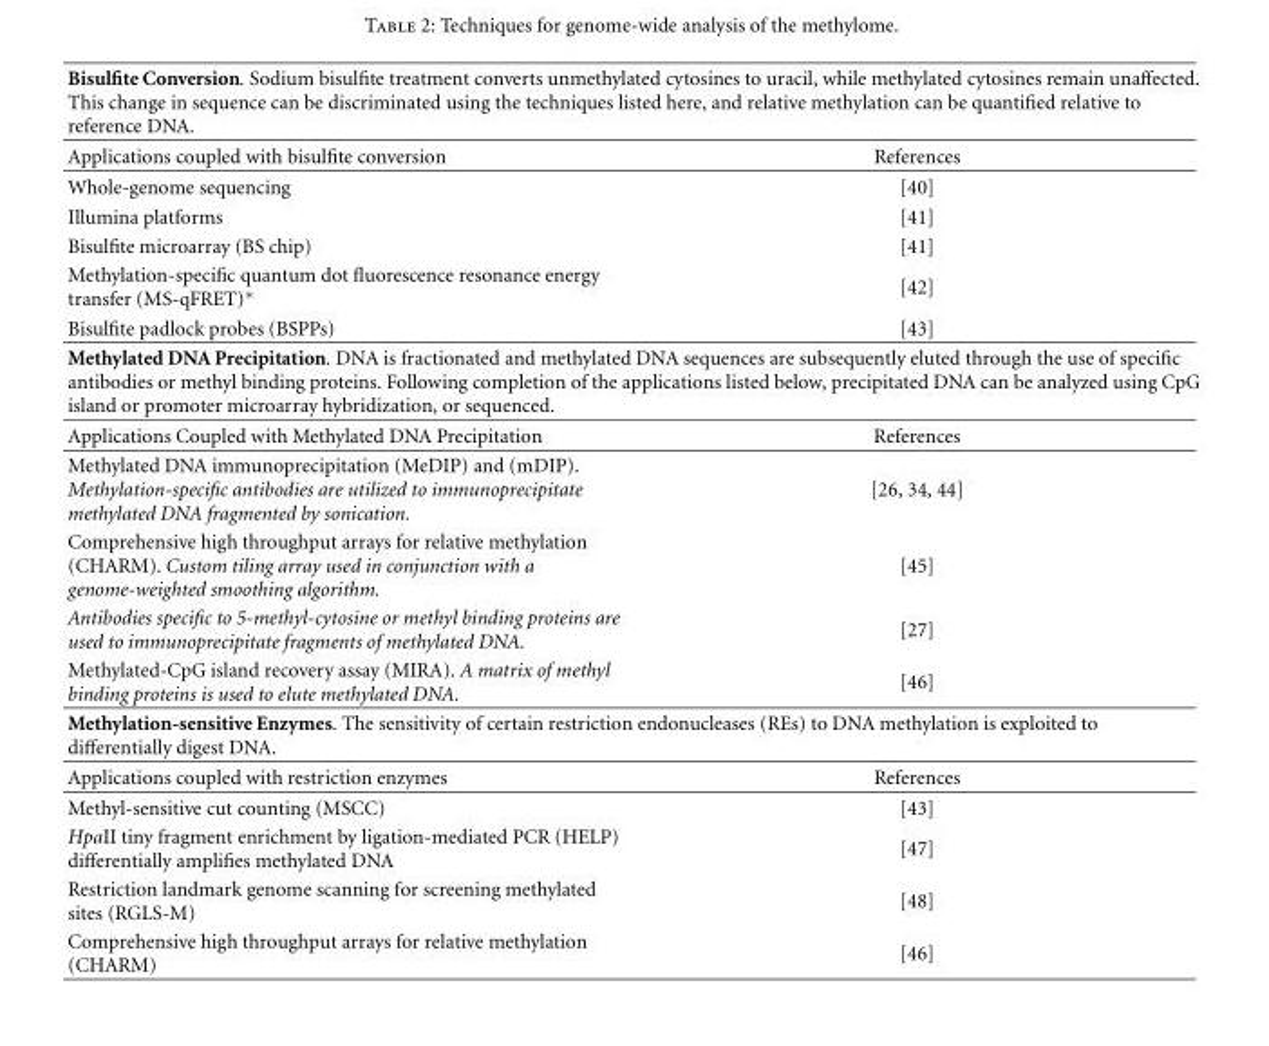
<table><thead><tr><td colspan="2">Bisulfite Conversion. Sodium bisulfite treatment converts unmethylated cytosines to uracil, while methylated cytosines remain unaffected. This change in sequence can be discriminated using the techniques listed here, and relative methylation can be quantified relative to reference DNA.</td></tr><tr><td>Applications coupled with bisulfite conversion</td><td>References</td></tr></thead><tbody><tr><td>Whole-genome sequencing</td><td>[40]</td></tr><tr><td>Illumina platforms</td><td>[41]</td></tr><tr><td>Bisulfite microarray (BS chip)</td><td>[41]</td></tr><tr><td>Methylation-specific quantum dot fluorescence resonance energy transfer (MS-qFRET)∗</td><td>[42]</td></tr><tr><td>Bisulfite padlock probes (BSPPs)</td><td>[43]</td></tr><tr><td colspan="2">Methylated DNA Precipitation. DNA is fractionated and methylated DNA sequences are subsequently eluted through the use of specific antibodies or methyl binding proteins. Following completion of the applications listed below, precipitated DNA can be analyzed using CpG island or promoter microarray hybridization, or sequenced.</td></tr><tr><td>Applications Coupled with Methylated DNA Precipitation</td><td>References</td></tr><tr><td>Methylated DNA immunoprecipitation (MeDIP) and (mDIP). Methylation-specific antibodies are utilized to immunoprecipitate methylated DNA fragmented by sonication.</td><td>[26, 34, 44]</td></tr><tr><td>Comprehensive high throughput arrays for relative methylation (CHARM). Custom tiling array used in conjunction with a genome-weighted smoothing algorithm.</td><td>[45]</td></tr><tr><td>Antibodies specific to 5-methyl-cytosine or methyl binding proteins are used to immunoprecipitate fragments of methylated DNA.</td><td>[27]</td></tr><tr><td>Methylated-CpG island recovery assay (MIRA). A matrix of methyl binding proteins is used to elute methylated DNA.</td><td>[46]</td></tr><tr><td colspan="2">Methylation-sensitive Enzymes. The sensitivity of certain restriction endonucleases (REs) to DNA methylation is exploited to differentially digest DNA.</td></tr><tr><td>Applications coupled with restriction enzymes</td><td>References</td></tr><tr><td>Methyl-sensitive cut counting (MSCC)</td><td>[43]</td></tr><tr><td>HpaII tiny fragment enrichment by ligation-mediated PCR (HELP) differentially amplifies methylated DNA</td><td>[47]</td></tr><tr><td>Restriction landmark genome scanning for screening methylated sites (RGLS-M)</td><td>[48]</td></tr><tr><td>Comprehensive high throughput arrays for relative methylation (CHARM)</td><td>[46]</td></tr></tbody></table>